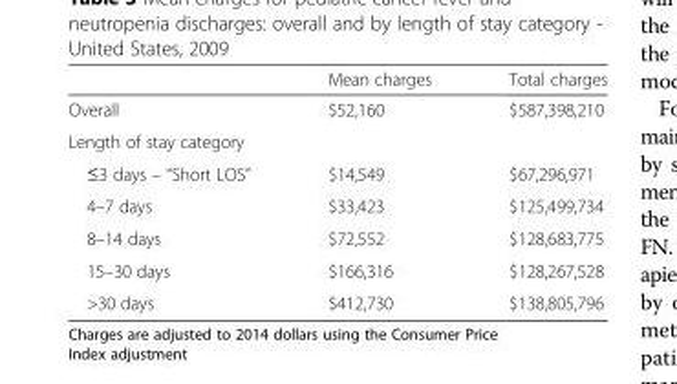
<table><thead><tr><td></td><td>Mean charges</td><td>Total charges</td></tr></thead><tbody><tr><td>Overall</td><td>$52,160</td><td>$587,398,210</td></tr><tr><td colspan="3">Length of stay category</td></tr><tr><td>≤3 days – “Short LOS”</td><td>$14,549</td><td>$67,296,971</td></tr><tr><td>4–7 days</td><td>$33,423</td><td>$125,499,734</td></tr><tr><td>8–14 days</td><td>$72,552</td><td>$128,683,775</td></tr><tr><td>15–30 days</td><td>$166,316</td><td>$128,267,528</td></tr><tr><td>&gt;30 days</td><td>$412,730</td><td>$138,805,796</td></tr></tbody></table>